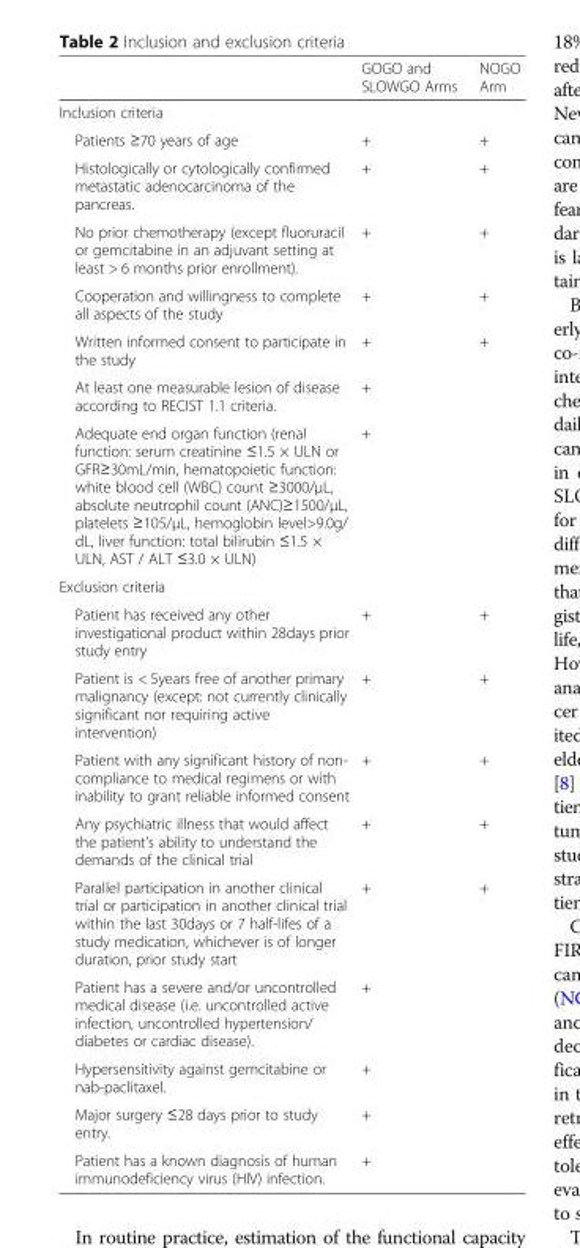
<table><thead><tr><td></td><td>GOGO and SLOWGO Arms</td><td>NOGO Arm</td></tr></thead><tbody><tr><td colspan="3">Inclusion criteria</td></tr><tr><td>Patients ≥70 years of age</td><td>+</td><td>+</td></tr><tr><td>Histologically or cytologically confirmed metastatic adenocarcinoma of the pancreas.</td><td>+</td><td>+</td></tr><tr><td>No prior chemotherapy (except fluoruracil or gemcitabine in an adjuvant setting at least &gt; 6 months prior enrollment).</td><td>+</td><td>+</td></tr><tr><td>Cooperation and willingness to complete all aspects of the study</td><td>+</td><td>+</td></tr><tr><td>Written informed consent to participate in the study</td><td>+</td><td>+</td></tr><tr><td>At least one measurable lesion of disease according to RECIST 1.1 criteria.</td><td>+</td><td></td></tr><tr><td>Adequate end organ function (renal function: serum creatinine ≤1.5 × ULN or GFR≥30mL/min, hematopoietic function: white blood cell (WBC) count ≥3000/μL, absolute neutrophil count (ANC)≥1500/μL, platelets ≥105/μL, hemoglobin level&gt;9.0g/ dL, liver function: total bilirubin ≤1.5 × ULN, AST / ALT ≤3.0 × ULN)</td><td>+</td><td></td></tr><tr><td colspan="3">Exclusion criteria</td></tr><tr><td>Patient has received any other investigational product within 28days prior study entry</td><td>+</td><td>+</td></tr><tr><td>Patient is &lt; 5years free of another primary malignancy (except: not currently clinically significant nor requiring active intervention)</td><td>+</td><td>+</td></tr><tr><td>Patient with any significant history of non- compliance to medical regimens or with inability to grant reliable informed consent</td><td>+</td><td>+</td></tr><tr><td>Any psychiatric illness that would affect the patient’s ability to understand the demands of the clinical trial</td><td>+</td><td>+</td></tr><tr><td>Parallel participation in another clinical trial or participation in another clinical trial within the last 30days or 7 half-lifes of a study medication, whichever is of longer duration, prior study start</td><td>+</td><td>+</td></tr><tr><td>Patient has a severe and/or uncontrolled medical disease (i.e. uncontrolled active infection, uncontrolled hypertension/ diabetes or cardiac disease).</td><td>+</td><td></td></tr><tr><td>Hypersensitivity against gemcitabine or nab-paclitaxel.</td><td>+</td><td></td></tr><tr><td>Major surgery ≤28 days prior to study entry.</td><td>+</td><td></td></tr><tr><td>Patient has a known diagnosis of human immunodeficiency virus (HIV) infection.</td><td>+</td><td></td></tr></tbody></table>